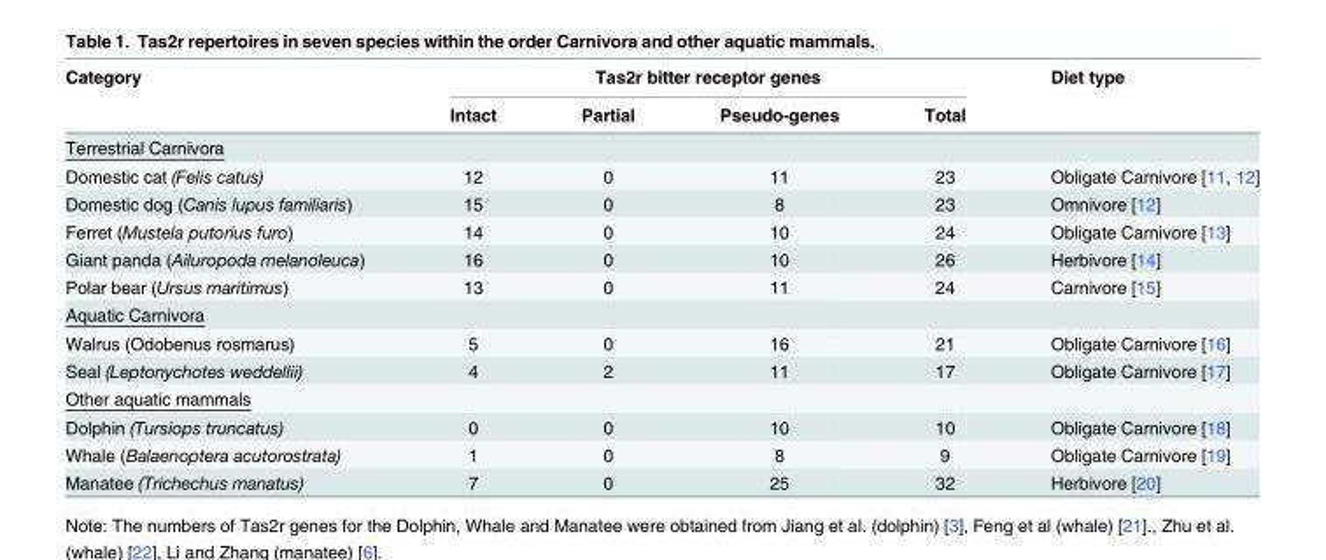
<table><thead><tr><td rowspan="2">Category</td><td colspan="4">Tas2r bitter receptor genes</td><td rowspan="2">Diet type</td></tr><tr><td>Intact</td><td>Partial</td><td>Pseudo-genes</td><td>Total</td></tr></thead><tbody><tr><td colspan="6">Terrestrial Carnivora</td></tr><tr><td>Domestic cat (Felis catus)</td><td>12</td><td>0</td><td>11</td><td>23</td><td>Obligate Carnivore [11, 12]</td></tr><tr><td>Domestic dog (Canis lupus familiaris)</td><td>15</td><td>0</td><td>8</td><td>23</td><td>Omnivore [12]</td></tr><tr><td>Ferret (Mustela putorius furo)</td><td>14</td><td>0</td><td>10</td><td>24</td><td>Obligate Carnivore [13]</td></tr><tr><td>Giant panda (Ailuropoda melanoleuca)</td><td>16</td><td>0</td><td>10</td><td>26</td><td>Herbivore [14]</td></tr><tr><td>Polar bear (Ursus maritimus)</td><td>13</td><td>0</td><td>11</td><td>24</td><td>Carnivore [15]</td></tr><tr><td colspan="6">Aquatic Carnivora</td></tr><tr><td>Walrus (Odobenus rosmarus)</td><td>5</td><td>0</td><td>16</td><td>21</td><td>Obligate Carnivore [16]</td></tr><tr><td>Seal (Leptonychotes weddellii)</td><td>4</td><td>2</td><td>11</td><td>17</td><td>Obligate Carnivore [17]</td></tr><tr><td colspan="6">Other aquatic mammals</td></tr><tr><td>Dolphin (Tursiops truncatus)</td><td>0</td><td>0</td><td>10</td><td>10</td><td>Obligate Carnivore [18]</td></tr><tr><td>Whale (Balaenoptera acutorostrata)</td><td>1</td><td>0</td><td>8</td><td>9</td><td>Obligate Carnivore [19]</td></tr><tr><td>Manatee (Trichechus manatus)</td><td>7</td><td>0</td><td>25</td><td>32</td><td>Herbivore [20]</td></tr></tbody></table>